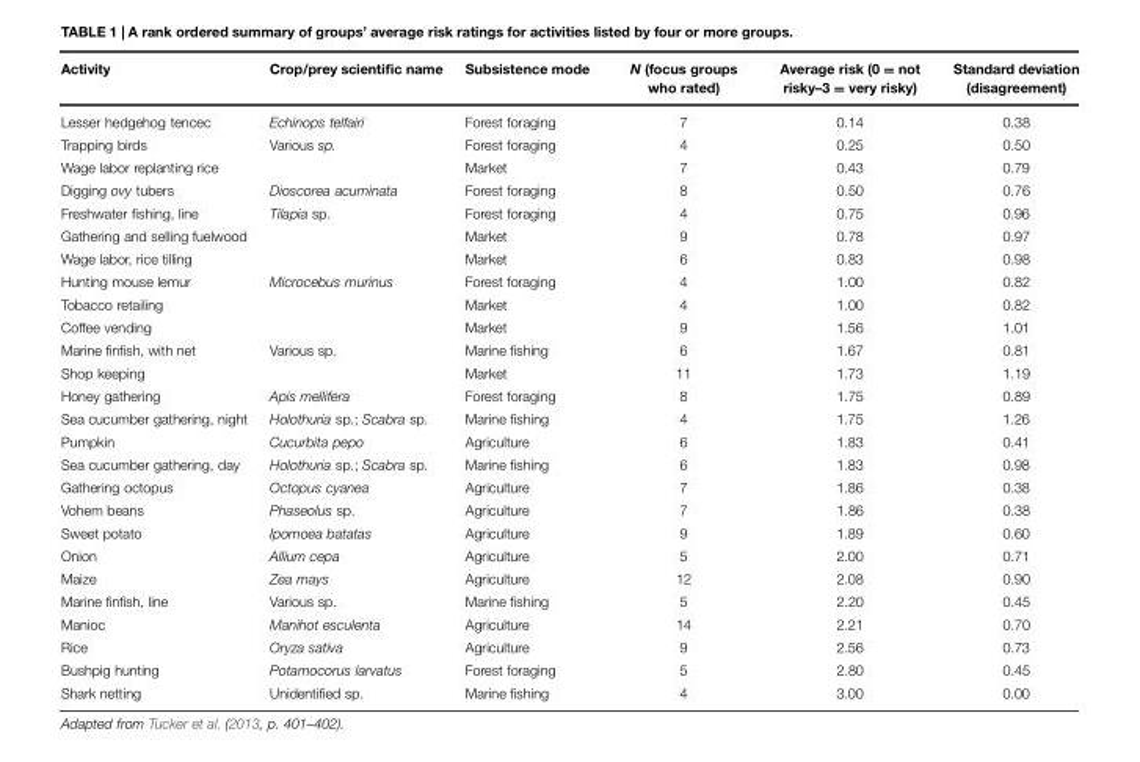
<table><thead><tr><td>Activity</td><td>Crop/prey scientific name</td><td>Subsistence mode</td><td>N (focus groups who rated)</td><td>Average risk (0 = not risky–3 = very risky)</td><td>Standard deviation (disagreement)</td></tr></thead><tbody><tr><td>Lesser hedgehog tencec</td><td>Echinops telfairi</td><td>Forest foraging</td><td>7</td><td>0.14</td><td>0.38</td></tr><tr><td>Trapping birds</td><td>Various sp.</td><td>Forest foraging</td><td>4</td><td>0.25</td><td>0.50</td></tr><tr><td>Wage labor replanting rice</td><td></td><td>Market</td><td>7</td><td>0.43</td><td>0.79</td></tr><tr><td>Digging ovy tubers</td><td>Dioscorea acuminata</td><td>Forest foraging</td><td>8</td><td>0.50</td><td>0.76</td></tr><tr><td>Freshwater fishing, line</td><td>Tilapia sp.</td><td>Forest foraging</td><td>4</td><td>0.75</td><td>0.96</td></tr><tr><td>Gathering and selling fuelwood</td><td></td><td>Market</td><td>9</td><td>0.78</td><td>0.97</td></tr><tr><td>Wage labor, rice tilling</td><td></td><td>Market</td><td>6</td><td>0.83</td><td>0.98</td></tr><tr><td>Hunting mouse lemur</td><td>Microcebus murinus</td><td>Forest foraging</td><td>4</td><td>1.00</td><td>0.82</td></tr><tr><td>Tobacco retailing</td><td></td><td>Market</td><td>4</td><td>1.00</td><td>0.82</td></tr><tr><td>Coffee vending</td><td></td><td>Market</td><td>9</td><td>1.56</td><td>1.01</td></tr><tr><td>Marine finfish, with net</td><td>Various sp.</td><td>Marine fishing</td><td>6</td><td>1.67</td><td>0.81</td></tr><tr><td>Shop keeping</td><td></td><td>Market</td><td>11</td><td>1.73</td><td>1.19</td></tr><tr><td>Honey gathering</td><td>Apis mellifera</td><td>Forest foraging</td><td>8</td><td>1.75</td><td>0.89</td></tr><tr><td>Sea cucumber gathering, night</td><td>Holothuria sp.; Scabra sp.</td><td>Marine fishing</td><td>4</td><td>1.75</td><td>1.26</td></tr><tr><td>Pumpkin</td><td>Cucurbita pepo</td><td>Agriculture</td><td>6</td><td>1.83</td><td>0.41</td></tr><tr><td>Sea cucumber gathering, day</td><td>Holothuria sp.; Scabra sp.</td><td>Marine fishing</td><td>6</td><td>1.83</td><td>0.98</td></tr><tr><td>Gathering octopus</td><td>Octopus cyanea</td><td>Agriculture</td><td>7</td><td>1.86</td><td>0.38</td></tr><tr><td>Vohem beans</td><td>Phaseolus sp.</td><td>Agriculture</td><td>7</td><td>1.86</td><td>0.38</td></tr><tr><td>Sweet potato</td><td>Ipomoea batatas</td><td>Agriculture</td><td>9</td><td>1.89</td><td>0.60</td></tr><tr><td>Onion</td><td>Allium cepa</td><td>Agriculture</td><td>5</td><td>2.00</td><td>0.71</td></tr><tr><td>Maize</td><td>Zea mays</td><td>Agriculture</td><td>12</td><td>2.08</td><td>0.90</td></tr><tr><td>Marine finfish, line</td><td>Various sp.</td><td>Marine fishing</td><td>5</td><td>2.20</td><td>0.45</td></tr><tr><td>Manioc</td><td>Manihot esculenta</td><td>Agriculture</td><td>14</td><td>2.21</td><td>0.70</td></tr><tr><td>Rice</td><td>Oryza sativa</td><td>Agriculture</td><td>9</td><td>2.56</td><td>0.73</td></tr><tr><td>Bushpig hunting</td><td>Potamocorus larvatus</td><td>Forest foraging</td><td>5</td><td>2.80</td><td>0.45</td></tr><tr><td>Shark netting</td><td>Unidentified sp.</td><td>Marine fishing</td><td>4</td><td>3.00</td><td>0.00</td></tr></tbody></table>